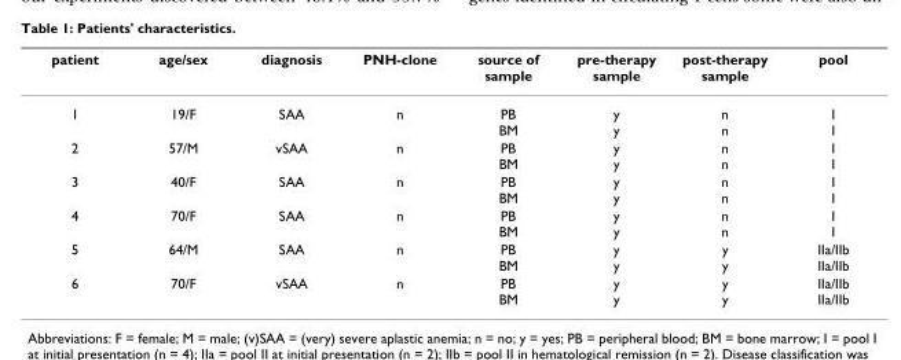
<table><thead><tr><td>patient</td><td>age/sex</td><td>diagnosis</td><td>PNH-clone</td><td>source of sample</td><td>pre-therapy sample</td><td>post-therapy sample</td><td>pool</td></tr></thead><tbody><tr><td>1</td><td>19/F</td><td>SAA</td><td>n</td><td>PB BM</td><td>y y</td><td>n n</td><td>I I</td></tr><tr><td>2</td><td>57/M</td><td>vSAA</td><td>n</td><td>PB BM</td><td>y y</td><td>n n</td><td>I I</td></tr><tr><td>3</td><td>40/F</td><td>SAA</td><td>n</td><td>PB BM</td><td>y y</td><td>n n</td><td>I I</td></tr><tr><td>4</td><td>70/F</td><td>SAA</td><td>n</td><td>PB BM</td><td>y y</td><td>n n</td><td>I I</td></tr><tr><td>5</td><td>64/M</td><td>SAA</td><td>n</td><td>PB BM</td><td>y y</td><td>y y</td><td>IIa/IIb IIa/IIb</td></tr><tr><td>6</td><td>70/F</td><td>vSAA</td><td>n</td><td>PB BM</td><td>y y</td><td>y y</td><td>IIa/IIb IIa/IIb</td></tr></tbody></table>